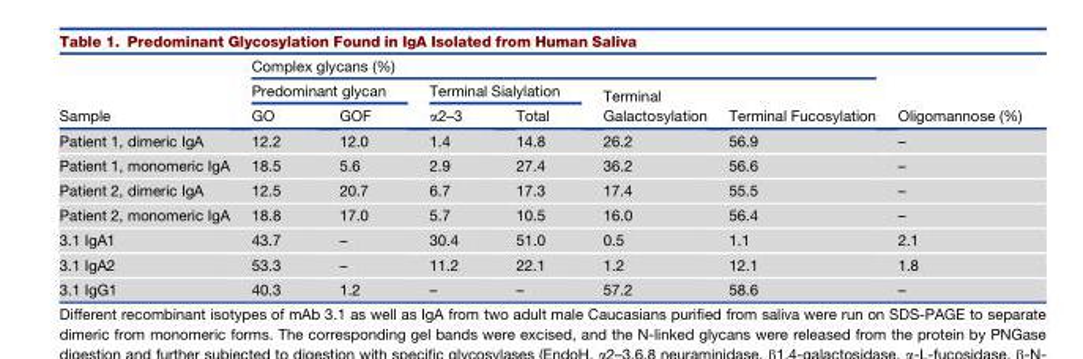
<table><thead><tr><td rowspan="3">Sample</td><td colspan="6">Complex glycans (%)</td><td rowspan="3">Oligomannose (%)</td></tr><tr><td colspan="2">Predominant glycan</td><td colspan="2">Terminal Sialylation</td><td rowspan="2">Terminal Galactosylation</td><td rowspan="2">Terminal Fucosylation</td></tr><tr><td>GO</td><td>GOF</td><td>α2–3</td><td>Total</td></tr></thead><tbody><tr><td>Patient 1, dimeric IgA</td><td>12.2</td><td>12.0</td><td>1.4</td><td>14.8</td><td>26.2</td><td>56.9</td><td>–</td></tr><tr><td>Patient 1, monomeric IgA</td><td>18.5</td><td>5.6</td><td>2.9</td><td>27.4</td><td>36.2</td><td>56.6</td><td>–</td></tr><tr><td>Patient 2, dimeric IgA</td><td>12.5</td><td>20.7</td><td>6.7</td><td>17.3</td><td>17.4</td><td>55.5</td><td>–</td></tr><tr><td>Patient 2, monomeric IgA</td><td>18.8</td><td>17.0</td><td>5.7</td><td>10.5</td><td>16.0</td><td>56.4</td><td>–</td></tr><tr><td>3.1 IgA1</td><td>43.7</td><td>–</td><td>30.4</td><td>51.0</td><td>0.5</td><td>1.1</td><td>2.1</td></tr><tr><td>3.1 IgA2</td><td>53.3</td><td>–</td><td>11.2</td><td>22.1</td><td>1.2</td><td>12.1</td><td>1.8</td></tr><tr><td>3.1 IgG1</td><td>40.3</td><td>1.2</td><td>–</td><td>–</td><td>57.2</td><td>58.6</td><td>–</td></tr></tbody></table>